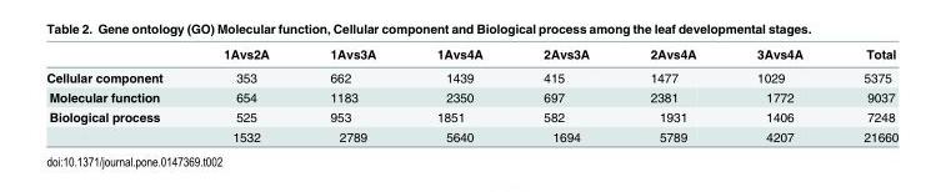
<table><thead><tr><td></td><td>1Avs2A</td><td>1Avs3A</td><td>1Avs4A</td><td>2Avs3A</td><td>2Avs4A</td><td>3Avs4A</td><td>Total</td></tr></thead><tbody><tr><td>Cellular component</td><td>353</td><td>662</td><td>1439</td><td>415</td><td>1477</td><td>1029</td><td>5375</td></tr><tr><td>Molecular function</td><td>654</td><td>1183</td><td>2350</td><td>697</td><td>2381</td><td>1772</td><td>9037</td></tr><tr><td rowspan="2">Biological process</td><td>525</td><td>953</td><td>1851</td><td>582</td><td>1931</td><td>1406</td><td>7248</td></tr><tr><td>1532</td><td>2789</td><td>5640</td><td>1694</td><td>5789</td><td>4207</td><td>21660</td></tr></tbody></table>